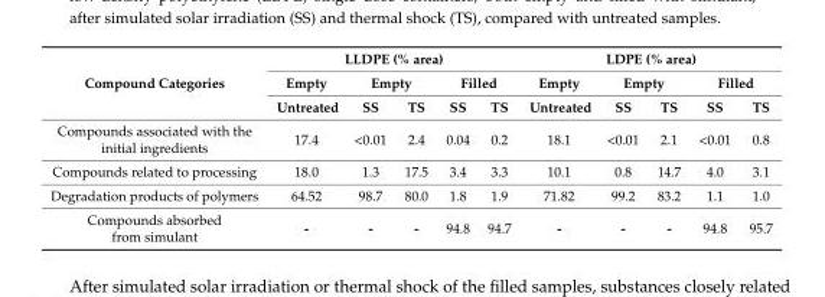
<table><thead><tr><td rowspan="3">Compound Categories</td><td colspan="5">LLDPE (% area)</td><td colspan="5">LDPE (% area)</td></tr><tr><td rowspan="2">Empty Untreated</td><td colspan="2">Empty</td><td colspan="2">Filled</td><td rowspan="2">Empty Untreated</td><td colspan="2">Empty</td><td colspan="2">Filled</td></tr><tr><td>SS</td><td>TS</td><td>SS</td><td>TS</td><td>SS</td><td>TS</td><td>SS</td><td>TS</td></tr></thead><tbody><tr><td>Compounds associated with the initial ingredients</td><td>17.4</td><td>&lt;0.01</td><td>2.4</td><td>0.04</td><td>0.2</td><td>18.1</td><td>&lt;0.01</td><td>2.1</td><td>&lt;0.01</td><td>0.8</td></tr><tr><td>Compounds related to processing</td><td>18.0</td><td>1.3</td><td>17.5</td><td>3.4</td><td>3.3</td><td>10.1</td><td>0.8</td><td>14.7</td><td>4.0</td><td>3.1</td></tr><tr><td>Degradation products of polymers</td><td>64.52</td><td>98.7</td><td>80.0</td><td>1.8</td><td>1.9</td><td>71.82</td><td>99.2</td><td>83.2</td><td>1.1</td><td>1.0</td></tr><tr><td>Compounds absorbed from simulant</td><td>-</td><td>-</td><td>-</td><td>94.8</td><td>94.7</td><td>-</td><td>-</td><td>-</td><td>94.8</td><td>95.7</td></tr></tbody></table>